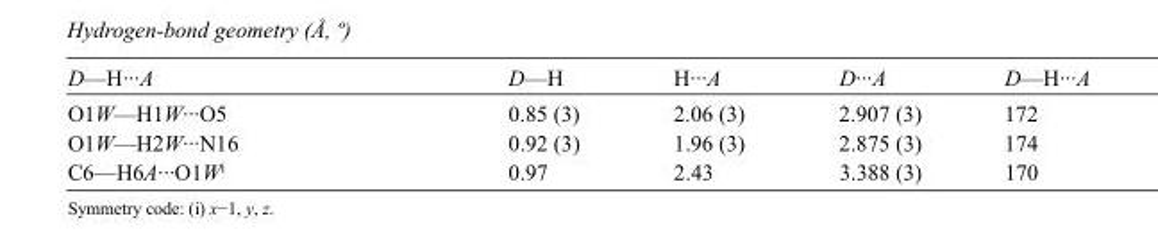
<table><tbody><tr><td>D—H···A</td><td>D—H</td><td>H···A</td><td>D···A</td><td>D—H···A</td></tr><tr><td>O1W—H1W···O5</td><td>0.85 (3)</td><td>2.06 (3)</td><td>2.907 (3)</td><td>172</td></tr><tr><td>O1W—H2W···N16</td><td>0.92 (3)</td><td>1.96 (3)</td><td>2.875 (3)</td><td>174</td></tr><tr><td>C6—H6A···O1W<sup>i</sup></td><td>0.97</td><td>2.43</td><td>3.388 (3)</td><td>170</td></tr></tbody></table>